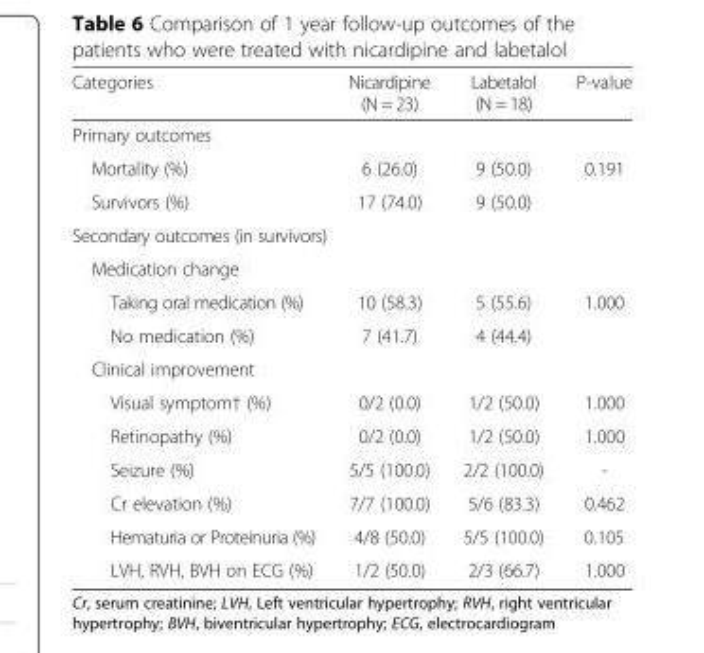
<table><thead><tr><td>Categories</td><td>Nicardipine (N = 23)</td><td>Labetalol (N = 18)</td><td>P-value</td></tr></thead><tbody><tr><td colspan="4">Primary outcomes</td></tr><tr><td>Mortality (%)</td><td>6 (26.0)</td><td>9 (50.0)</td><td rowspan="2">0.191</td></tr><tr><td>Survivors (%)</td><td>17 (74.0)</td><td>9 (50.0)</td></tr><tr><td colspan="4">Secondary outcomes (in survivors)</td></tr><tr><td colspan="4">Medication change</td></tr><tr><td>Taking oral medication (%)</td><td>10 (58.3)</td><td>5 (55.6)</td><td rowspan="2">1.000</td></tr><tr><td>No medication (%)</td><td>7 (41.7)</td><td>4 (44.4)</td></tr><tr><td colspan="4">Clinical improvement</td></tr><tr><td>Visual symptom† (%)</td><td>0/2 (0.0)</td><td>1/2 (50.0)</td><td>1.000</td></tr><tr><td>Retinopathy (%)</td><td>0/2 (0.0)</td><td>1/2 (50.0)</td><td>1.000</td></tr><tr><td>Seizure (%)</td><td>5/5 (100.0)</td><td>2/2 (100.0)</td><td>-</td></tr><tr><td>Cr elevation (%)</td><td>7/7 (100.0)</td><td>5/6 (83.3)</td><td>0.462</td></tr><tr><td>Hematuria or Proteinuria (%)</td><td>4/8 (50.0)</td><td>5/5 (100.0)</td><td>0.105</td></tr><tr><td>LVH, RVH, BVH on ECG (%)</td><td>1/2 (50.0)</td><td>2/3 (66.7)</td><td>1.000</td></tr></tbody></table>